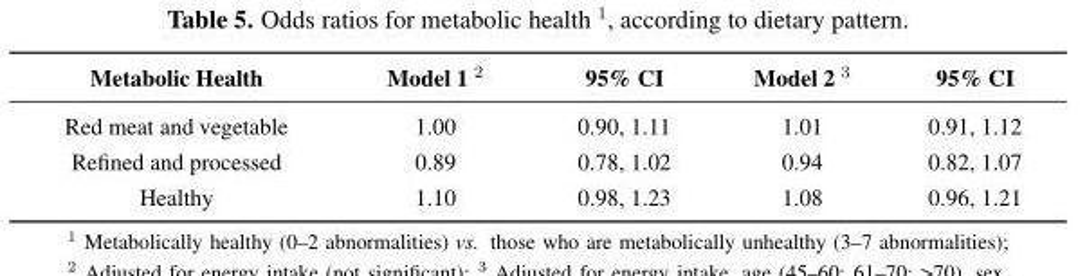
<table><thead><tr><td>Metabolic Health</td><td>Model 1 <sup>2</sup></td><td>95% CI</td><td>Model 2 <sup>3</sup></td><td>95% CI</td></tr></thead><tbody><tr><td>Red meat and vegetable</td><td>1.00</td><td>0.90, 1.11</td><td>1.01</td><td>0.91, 1.12</td></tr><tr><td>Refined and processed</td><td>0.89</td><td>0.78, 1.02</td><td>0.94</td><td>0.82, 1.07</td></tr><tr><td>Healthy</td><td>1.10</td><td>0.98, 1.23</td><td>1.08</td><td>0.96, 1.21</td></tr></tbody></table>